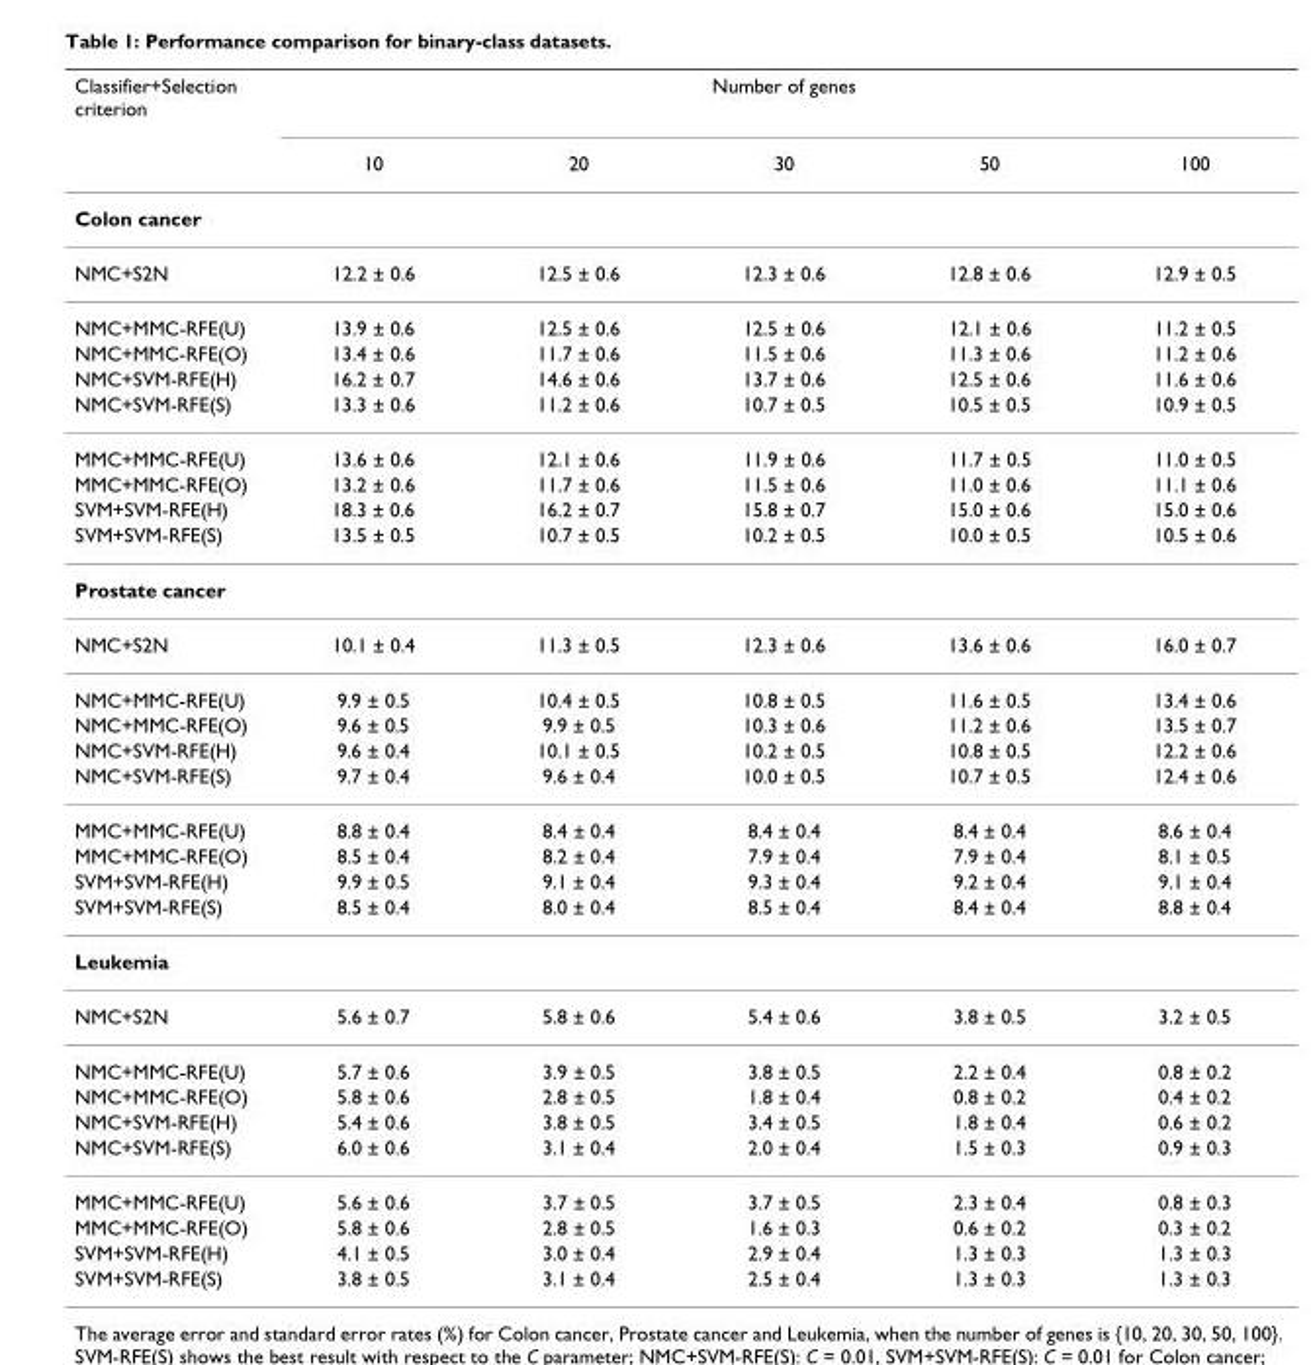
<table><thead><tr><td rowspan="2">Classifier+Selection criterion</td><td colspan="5">Number of genes</td></tr><tr><td>10</td><td>20</td><td>30</td><td>50</td><td>100</td></tr></thead><tbody><tr><td colspan="6">Colon cancer</td></tr><tr><td>NMC+S2N</td><td>12.2 ± 0.6</td><td>12.5 ± 0.6</td><td>12.3 ± 0.6</td><td>12.8 ± 0.6</td><td>12.9 ± 0.5</td></tr><tr><td>NMC+MMC-RFE(U)</td><td>13.9 ± 0.6</td><td>12.5 ± 0.6</td><td>12.5 ± 0.6</td><td>12.1 ± 0.6</td><td>11.2 ± 0.5</td></tr><tr><td>NMC+MMC-RFE(O)</td><td>13.4 ± 0.6</td><td>11.7 ± 0.6</td><td>11.5 ± 0.6</td><td>11.3 ± 0.6</td><td>11.2 ± 0.6</td></tr><tr><td>NMC+SVM-RFE(H)</td><td>16.2 ± 0.7</td><td>14.6 ± 0.6</td><td>13.7 ± 0.6</td><td>12.5 ± 0.6</td><td>11.6 ± 0.6</td></tr><tr><td>NMC+SVM-RFE(S)</td><td>13.3 ± 0.6</td><td>11.2 ± 0.6</td><td>10.7 ± 0.5</td><td>10.5 ± 0.5</td><td>10.9 ± 0.5</td></tr><tr><td>MMC+MMC-RFE(U)</td><td>13.6 ± 0.6</td><td>12.1 ± 0.6</td><td>11.9 ± 0.6</td><td>11.7 ± 0.5</td><td>11.0 ± 0.5</td></tr><tr><td>MMC+MMC-RFE(O)</td><td>13.2 ± 0.6</td><td>11.7 ± 0.6</td><td>11.5 ± 0.6</td><td>11.0 ± 0.6</td><td>11.1 ± 0.6</td></tr><tr><td>SVM+SVM-RFE(H)</td><td>18.3 ± 0.6</td><td>16.2 ± 0.7</td><td>15.8 ± 0.7</td><td>15.0 ± 0.6</td><td>15.0 ± 0.6</td></tr><tr><td>SVM+SVM-RFE(S)</td><td>13.5 ± 0.5</td><td>10.7 ± 0.5</td><td>10.2 ± 0.5</td><td>10.0 ± 0.5</td><td>10.5 ± 0.6</td></tr><tr><td colspan="6">Prostate cancer</td></tr><tr><td>NMC+S2N</td><td>10.1 ± 0.4</td><td>11.3 ± 0.5</td><td>12.3 ± 0.6</td><td>13.6 ± 0.6</td><td>16.0 ± 0.7</td></tr><tr><td>NMC+MMC-RFE(U)</td><td>9.9 ± 0.5</td><td>10.4 ± 0.5</td><td>10.8 ± 0.5</td><td>11.6 ± 0.5</td><td>13.4 ± 0.6</td></tr><tr><td>NMC+MMC-RFE(O)</td><td>9.6 ± 0.5</td><td>9.9 ± 0.5</td><td>10.3 ± 0.6</td><td>11.2 ± 0.6</td><td>13.5 ± 0.7</td></tr><tr><td>NMC+SVM-RFE(H)</td><td>9.6 ± 0.4</td><td>10.1 ± 0.5</td><td>10.2 ± 0.5</td><td>10.8 ± 0.5</td><td>12.2 ± 0.6</td></tr><tr><td>NMC+SVM-RFE(S)</td><td>9.7 ± 0.4</td><td>9.6 ± 0.4</td><td>10.0 ± 0.5</td><td>10.7 ± 0.5</td><td>12.4 ± 0.6</td></tr><tr><td>MMC+MMC-RFE(U)</td><td>8.8 ± 0.4</td><td>8.4 ± 0.4</td><td>8.4 ± 0.4</td><td>8.4 ± 0.4</td><td>8.6 ± 0.4</td></tr><tr><td>MMC+MMC-RFE(O)</td><td>8.5 ± 0.4</td><td>8.2 ± 0.4</td><td>7.9 ± 0.4</td><td>7.9 ± 0.4</td><td>8.1 ± 0.5</td></tr><tr><td>SVM+SVM-RFE(H)</td><td>9.9 ± 0.5</td><td>9.1 ± 0.4</td><td>9.3 ± 0.4</td><td>9.2 ± 0.4</td><td>9.1 ± 0.4</td></tr><tr><td>SVM+SVM-RFE(S)</td><td>8.5 ± 0.4</td><td>8.0 ± 0.4</td><td>8.5 ± 0.4</td><td>8.4 ± 0.4</td><td>8.8 ± 0.4</td></tr><tr><td colspan="6">Leukemia</td></tr><tr><td>NMC+S2N</td><td>5.6 ± 0.7</td><td>5.8 ± 0.6</td><td>5.4 ± 0.6</td><td>3.8 ± 0.5</td><td>3.2 ± 0.5</td></tr><tr><td>NMC+MMC-RFE(U)</td><td>5.7 ± 0.6</td><td>3.9 ± 0.5</td><td>3.8 ± 0.5</td><td>2.2 ± 0.4</td><td>0.8 ± 0.2</td></tr><tr><td>NMC+MMC-RFE(O)</td><td>5.8 ± 0.6</td><td>2.8 ± 0.5</td><td>1.8 ± 0.4</td><td>0.8 ± 0.2</td><td>0.4 ± 0.2</td></tr><tr><td>NMC+SVM-RFE(H)</td><td>5.4 ± 0.6</td><td>3.8 ± 0.5</td><td>3.4 ± 0.5</td><td>1.8 ± 0.4</td><td>0.6 ± 0.2</td></tr><tr><td>NMC+SVM-RFE(S)</td><td>6.0 ± 0.6</td><td>3.1 ± 0.4</td><td>2.0 ± 0.4</td><td>1.5 ± 0.3</td><td>0.9 ± 0.3</td></tr><tr><td>MMC+MMC-RFE(U)</td><td>5.6 ± 0.6</td><td>3.7 ± 0.5</td><td>3.7 ± 0.5</td><td>2.3 ± 0.4</td><td>0.8 ± 0.3</td></tr><tr><td>MMC+MMC-RFE(O)</td><td>5.8 ± 0.6</td><td>2.8 ± 0.5</td><td>1.6 ± 0.3</td><td>0.6 ± 0.2</td><td>0.3 ± 0.2</td></tr><tr><td>SVM+SVM-RFE(H)</td><td>4.1 ± 0.5</td><td>3.0 ± 0.4</td><td>2.9 ± 0.4</td><td>1.3 ± 0.3</td><td>1.3 ± 0.3</td></tr><tr><td>SVM+SVM-RFE(S)</td><td>3.8 ± 0.5</td><td>3.1 ± 0.4</td><td>2.5 ± 0.4</td><td>1.3 ± 0.3</td><td>1.3 ± 0.3</td></tr></tbody></table>